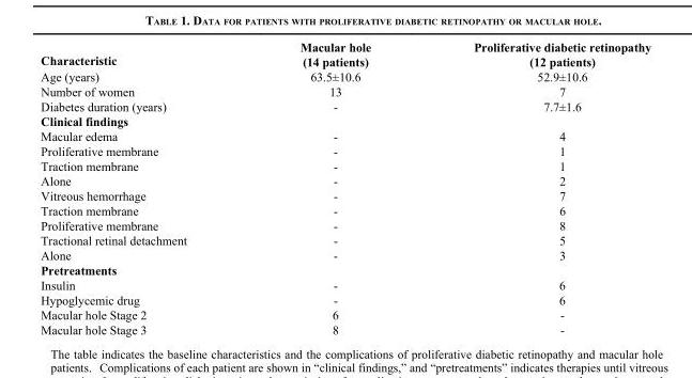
<table><thead><tr><td>Characteristic</td><td>Macular hole (14 patients)</td><td>Proliferative diabetic retinopathy (12 patients)</td></tr></thead><tbody><tr><td>Age (years)</td><td>63.5±10.6</td><td>52.9±10.6</td></tr><tr><td>Number of women</td><td>13</td><td>7</td></tr><tr><td>Diabetes duration (years)</td><td>-</td><td>7.7±1.6</td></tr><tr><td colspan="3">Clinical findings</td></tr><tr><td>Macular edema</td><td>-</td><td>4</td></tr><tr><td>Proliferative membrane</td><td>-</td><td>1</td></tr><tr><td>Traction membrane</td><td>-</td><td>1</td></tr><tr><td>Alone</td><td>-</td><td>2</td></tr><tr><td>Vitreous hemorrhage</td><td>-</td><td>7</td></tr><tr><td>Traction membrane</td><td>-</td><td>6</td></tr><tr><td>Proliferative membrane</td><td>-</td><td>8</td></tr><tr><td>Tractional retinal detachment</td><td>-</td><td>5</td></tr><tr><td>Alone</td><td>-</td><td>3</td></tr><tr><td colspan="3">Pretreatments</td></tr><tr><td>Insulin</td><td>-</td><td>6</td></tr><tr><td>Hypoglycemic drug</td><td>-</td><td>6</td></tr><tr><td>Macular hole Stage 2</td><td>6</td><td>-</td></tr><tr><td>Macular hole Stage 3</td><td>8</td><td>-</td></tr></tbody></table>